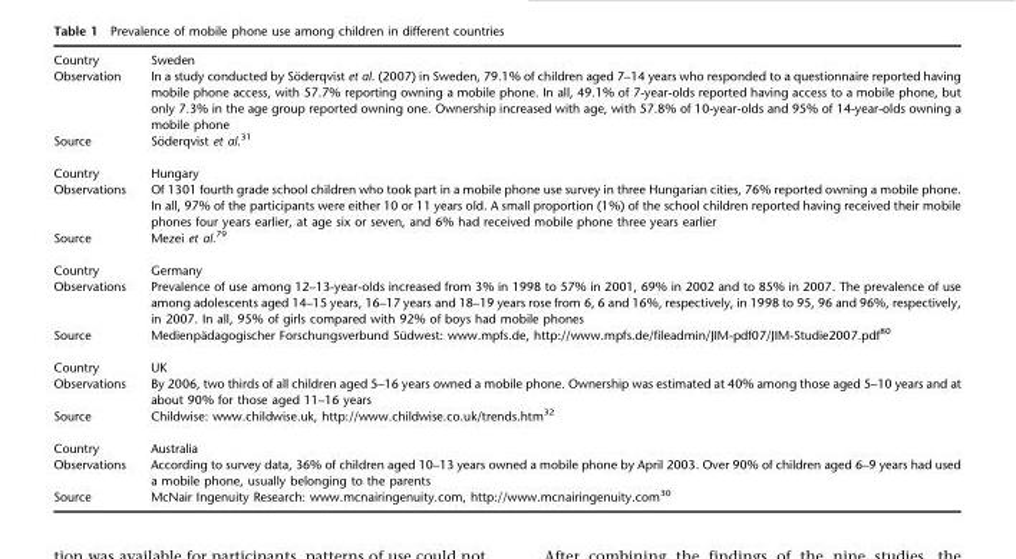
<table><tbody><tr><td>Country</td><td>Sweden</td></tr><tr><td>Observation</td><td>In a study conducted by So¨derqvist et al. (2007) in Sweden, 79.1% of children aged 7–14 years who responded to a questionnaire reported having mobile phone access, with 57.7% reporting owning a mobile phone. In all, 49.1% of 7-year-olds reported having access to a mobile phone, but only 7.3% in the age group reported owning one. Ownership increased with age, with 57.8% of 10-year-olds and 95% of 14-year-olds owning a mobile phone</td></tr><tr><td>Source</td><td>So¨derqvist et al.31</td></tr><tr><td>Country</td><td>Hungary</td></tr><tr><td>Observations</td><td>Of 1301 fourth grade school children who took part in a mobile phone use survey in three Hungarian cities, 76% reported owning a mobile phone. In all, 97% of the participants were either 10 or 11 years old. A small proportion (1%) of the school children reported having received their mobile phones four years earlier, at age six or seven, and 6% had received mobile phone three years earlier</td></tr><tr><td>Source</td><td>Mezei et al.<sup>79</sup></td></tr><tr><td>Country</td><td>Germany</td></tr><tr><td>Observations</td><td>Prevalence of use among 12–13-year-olds increased from 3% in 1998 to 57% in 2001, 69% in 2002 and to 85% in 2007. The prevalence of use among adolescents aged 14–15 years, 16–17 years and 18–19 years rose from 6, 6 and 16%, respectively, in 1998 to 95, 96 and 96%, respectively, in 2007. In all, 95% of girls compared with 92% of boys had mobile phones</td></tr><tr><td>Source</td><td>Medienpa¨dagogischer Forschungsverbund Su¨dwest: www.mpfs.de, http://www.mpfs.de/fileadmin/JIM-pdf07/JIM-Studie2007.pdf80</td></tr><tr><td>Country</td><td>UK</td></tr><tr><td>Observations</td><td>By 2006, two thirds of all children aged 5–16 years owned a mobile phone. Ownership was estimated at 40% among those aged 5–10 years and at about 90% for those aged 11–16 years</td></tr><tr><td>Source</td><td>Childwise: www.childwise.uk, http://www.childwise.co.uk/trends.htm32</td></tr><tr><td>Country</td><td>Australia</td></tr><tr><td>Observations</td><td>According to survey data, 36% of children aged 10–13 years owned a mobile phone by April 2003. Over 90% of children aged 6–9 years had used a mobile phone, usually belonging to the parents</td></tr><tr><td>Source</td><td>McNair Ingenuity Research: www.mcnairingenuity.com, http://www.mcnairingenuity.com<sup>30</sup></td></tr></tbody></table>